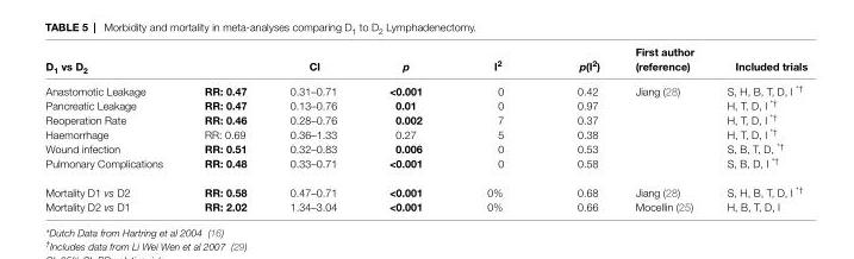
<table><thead><tr><td>D<sub>1</sub> vs D<sub>2</sub></td><td></td><td>Ci</td><td>p</td><td>i<sup>2</sup></td><td>p(i<sup>2</sup>)</td><td>First author (reference)</td><td>included trials</td></tr></thead><tbody><tr><td>Anastomotic Leakage</td><td>RR: 0.47</td><td>0.31–0.71</td><td>&lt;0.001</td><td>0</td><td>0.42</td><td rowspan="6">Jiang (28)</td><td>S, H, B, T, D, I *<sup>†</sup></td></tr><tr><td>Pancreatic Leakage</td><td>RR: 0.47</td><td>0.13–0.76</td><td>0.01</td><td>0</td><td>0.97</td><td>H, T, D, I *<sup>†</sup></td></tr><tr><td>Reoperation Rate</td><td>RR: 0.46</td><td>0.28–0.76</td><td>0.002</td><td>7</td><td>0.37</td><td>H, T, D, I *<sup>†</sup></td></tr><tr><td>Haemorrhage</td><td>RR: 0.69</td><td>0.36–1.33</td><td>0.27</td><td>5</td><td>0.38</td><td>H, T, D, I *<sup>†</sup></td></tr><tr><td>Wound infection</td><td>RR: 0.51</td><td>0.32–0.83</td><td>0.006</td><td>0</td><td>0.53</td><td>S, B, T, D, *<sup>†</sup></td></tr><tr><td>Pulmonary Complications</td><td>RR: 0.48</td><td>0.33–0.71</td><td>&lt;0.001</td><td>0</td><td>0.58</td><td>S, B, D, I *<sup>†</sup></td></tr><tr><td>Mortality D1 vs D2</td><td>RR: 0.58</td><td>0.47–0.71</td><td>&lt;0.001</td><td>0%</td><td>0.68</td><td>Jiang (28)</td><td>S, H, B, T, D, I *<sup>†</sup></td></tr><tr><td>Mortality D2 vs D1</td><td>RR: 2.02</td><td>1.34–3.04</td><td>&lt;0.001</td><td>0%</td><td>0.66</td><td>Mocellin (25)</td><td>H, B, T, D, I</td></tr></tbody></table>